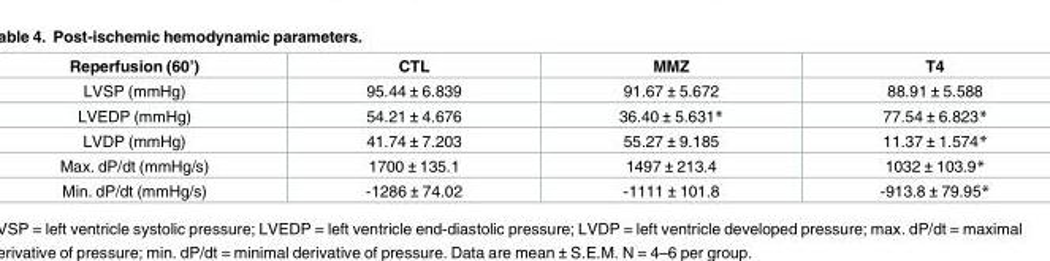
<table><thead><tr><td>Reperfusion (60’)</td><td>CTL</td><td>MMZ</td><td>T4</td></tr></thead><tbody><tr><td>LVSP (mmHg)</td><td>95.44 ± 6.839</td><td>91.67 ± 5.672</td><td>88.91 ± 5.588</td></tr><tr><td>LVEDP (mmHg)</td><td>54.21 ± 4.676</td><td>36.40 ± 5.631*</td><td>77.54 ± 6.823*</td></tr><tr><td>LVDP (mmHg)</td><td>41.74 ± 7.203</td><td>55.27 ± 9.185</td><td>11.37 ± 1.574*</td></tr><tr><td>Max. dP/dt (mmHg/s)</td><td>1700 ± 135.1</td><td>1497 ± 213.4</td><td>1032 ± 103.9*</td></tr><tr><td>Min. dP/dt (mmHg/s)</td><td>-1286 ± 74.02</td><td>-1111 ± 101.8</td><td>-913.8 ± 79.95*</td></tr></tbody></table>